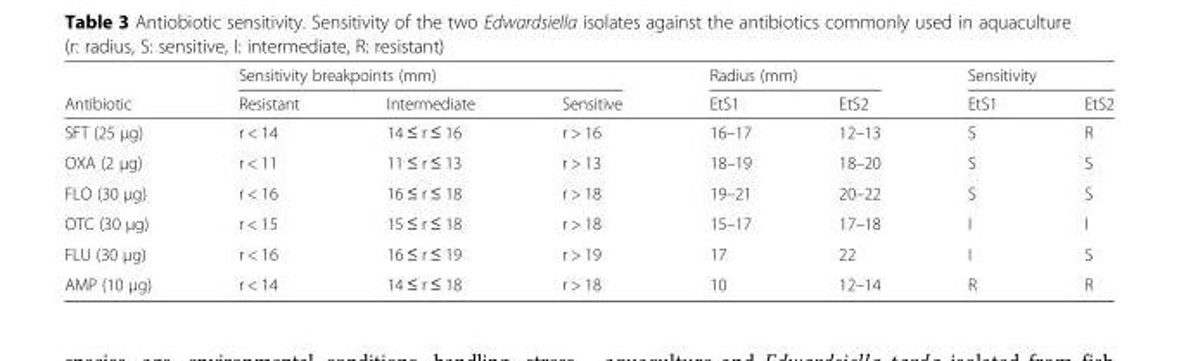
<table><thead><tr><td rowspan="2">Antibiotic</td><td colspan="3">Sensitivity breakpoints (mm)</td><td colspan="2">Radius (mm)</td><td colspan="2">Sensitivity</td></tr><tr><td>Resistant</td><td>Intermediate</td><td>Sensitive</td><td>EtS1</td><td>EtS2</td><td>EtS1</td><td>EtS2</td></tr></thead><tbody><tr><td>SFT (25 μg)</td><td>r &lt; 14</td><td>14 ≤ r ≤ 16</td><td>r &gt; 16</td><td>16–17</td><td>12–13</td><td>S</td><td>R</td></tr><tr><td>OXA (2 μg)</td><td>r &lt; 11</td><td>11 ≤ r ≤ 13</td><td>r &gt; 13</td><td>18–19</td><td>18–20</td><td>S</td><td>S</td></tr><tr><td>FLO (30 μg)</td><td>r &lt; 16</td><td>16 ≤ r ≤ 18</td><td>r &gt; 18</td><td>19–21</td><td>20–22</td><td>S</td><td>S</td></tr><tr><td>OTC (30 μg)</td><td>r &lt; 15</td><td>15 ≤ r ≤ 18</td><td>r &gt; 18</td><td>15–17</td><td>17–18</td><td>I</td><td>I</td></tr><tr><td>FLU (30 μg)</td><td>r &lt; 16</td><td>16 ≤ r ≤ 19</td><td>r &gt; 19</td><td>17</td><td>22</td><td>I</td><td>S</td></tr><tr><td>AMP (10 μg)</td><td>r &lt; 14</td><td>14 ≤ r ≤ 18</td><td>r &gt; 18</td><td>10</td><td>12–14</td><td>R</td><td>R</td></tr></tbody></table>